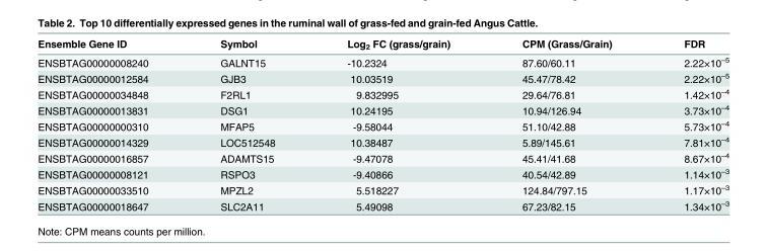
<table><thead><tr><td>Ensemble Gene ID</td><td>Symbol</td><td>Log<sub>2</sub> FC (grass/grain)</td><td>CPM (Grass/Grain)</td><td>FDR</td></tr></thead><tbody><tr><td>ENSBTAG00000008240</td><td>GALNT15</td><td>-10.2324</td><td>87.60/60.11</td><td>2.22×10<sup>–5</sup></td></tr><tr><td>ENSBTAG00000012584</td><td>GJB3</td><td>10.03519</td><td>45.47/78.42</td><td>2.22×10<sup>–5</sup></td></tr><tr><td>ENSBTAG00000034848</td><td>F2RL1</td><td>9.832995</td><td>29.64/76.81</td><td>1.42×10<sup>–4</sup></td></tr><tr><td>ENSBTAG00000013831</td><td>DSG1</td><td>10.24195</td><td>10.94/126.94</td><td>3.73×10<sup>–4</sup></td></tr><tr><td>ENSBTAG00000000310</td><td>MFAP5</td><td>-9.58044</td><td>51.10/42.88</td><td>5.73×10<sup>–4</sup></td></tr><tr><td>ENSBTAG00000014329</td><td>LOC512548</td><td>10.38487</td><td>5.89/145.61</td><td>7.81×10<sup>–4</sup></td></tr><tr><td>ENSBTAG00000016857</td><td>ADAMTS15</td><td>-9.47078</td><td>45.41/41.68</td><td>8.67×10<sup>–4</sup></td></tr><tr><td>ENSBTAG00000008121</td><td>RSPO3</td><td>-9.40866</td><td>40.54/42.89</td><td>1.14×10<sup>–3</sup></td></tr><tr><td>ENSBTAG00000033510</td><td>MPZL2</td><td>5.518227</td><td>124.84/797.15</td><td>1.17×10<sup>–3</sup></td></tr><tr><td>ENSBTAG00000018647</td><td>SLC2A11</td><td>5.49098</td><td>67.23/82.15</td><td>1.34×10<sup>–3</sup></td></tr></tbody></table>